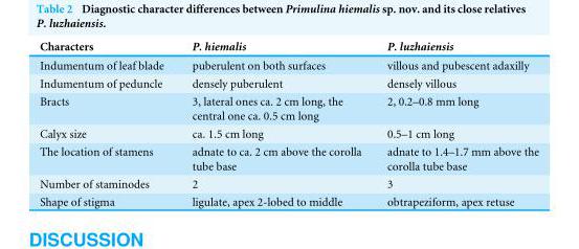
<table><thead><tr><td>Characters</td><td>P. hiemalis</td><td>P. luzhaiensis</td></tr></thead><tbody><tr><td>Indumentum of leaf blade</td><td>puberulent on both surfaces</td><td>villous and pubescent adaxilly</td></tr><tr><td>Indumentum of peduncle</td><td>densely puberulent</td><td>densely villous</td></tr><tr><td>Bracts</td><td>3, lateral ones ca. 2 cm long, the central one ca. 0.5 cm long</td><td>2, 0.2–0.8 mm long</td></tr><tr><td>Calyx size</td><td>ca. 1.5 cm long</td><td>0.5–1 cm long</td></tr><tr><td>The location of stamens</td><td>adnate to ca. 2 cm above the corolla tube base</td><td>adnate to 1.4–1.7 mm above the corolla tube base</td></tr><tr><td>Number of staminodes</td><td>2</td><td>3</td></tr><tr><td>Shape of stigma</td><td>ligulate, apex 2-lobed to middle</td><td>obtrapeziform, apex retuse</td></tr></tbody></table>